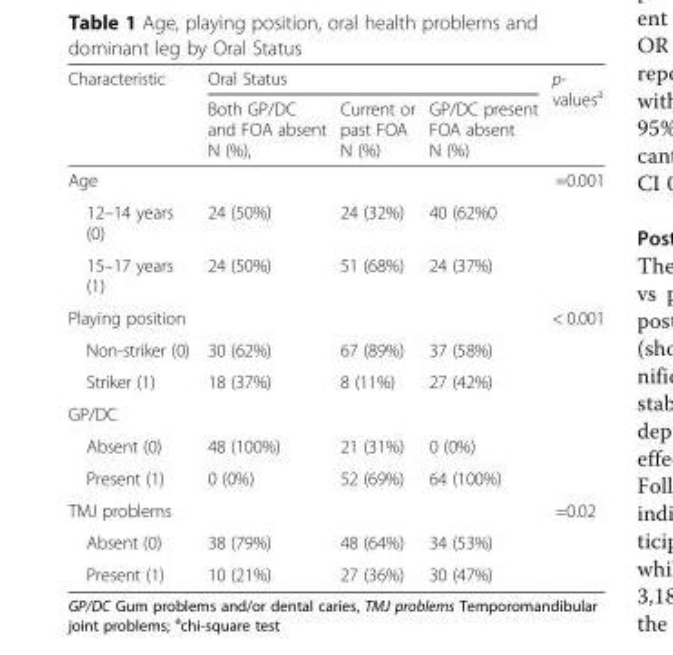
<table><thead><tr><td rowspan="2">Characteristic</td><td colspan="3">Oral Status</td><td rowspan="2">p- values<sup>a</sup></td></tr><tr><td>Both GP/DC and FOA absent N (%),</td><td>Current or past FOA N (%)</td><td>GP/DC present FOA absent N (%)</td></tr></thead><tbody><tr><td>Age</td><td></td><td></td><td></td><td>=0.001</td></tr><tr><td>12–14 years (0)</td><td>24 (50%)</td><td>24 (32%)</td><td>40 (62%0</td><td></td></tr><tr><td>15–17 years (1)</td><td>24 (50%)</td><td>51 (68%)</td><td>24 (37%)</td><td></td></tr><tr><td>Playing position</td><td></td><td></td><td></td><td>&lt; 0.001</td></tr><tr><td>Non-striker (0)</td><td>30 (62%)</td><td>67 (89%)</td><td>37 (58%)</td><td></td></tr><tr><td>Striker (1)</td><td>18 (37%)</td><td>8 (11%)</td><td>27 (42%)</td><td></td></tr><tr><td colspan="5">GP/DC</td></tr><tr><td>Absent (0)</td><td>48 (100%)</td><td>21 (31%)</td><td>0 (0%)</td><td></td></tr><tr><td>Present (1)</td><td>0 (0%)</td><td>52 (69%)</td><td>64 (100%)</td><td></td></tr><tr><td>TMJ problems</td><td></td><td></td><td></td><td>=0.02</td></tr><tr><td>Absent (0)</td><td>38 (79%)</td><td>48 (64%)</td><td>34 (53%)</td><td></td></tr><tr><td>Present (1)</td><td>10 (21%)</td><td>27 (36%)</td><td>30 (47%)</td><td></td></tr></tbody></table>